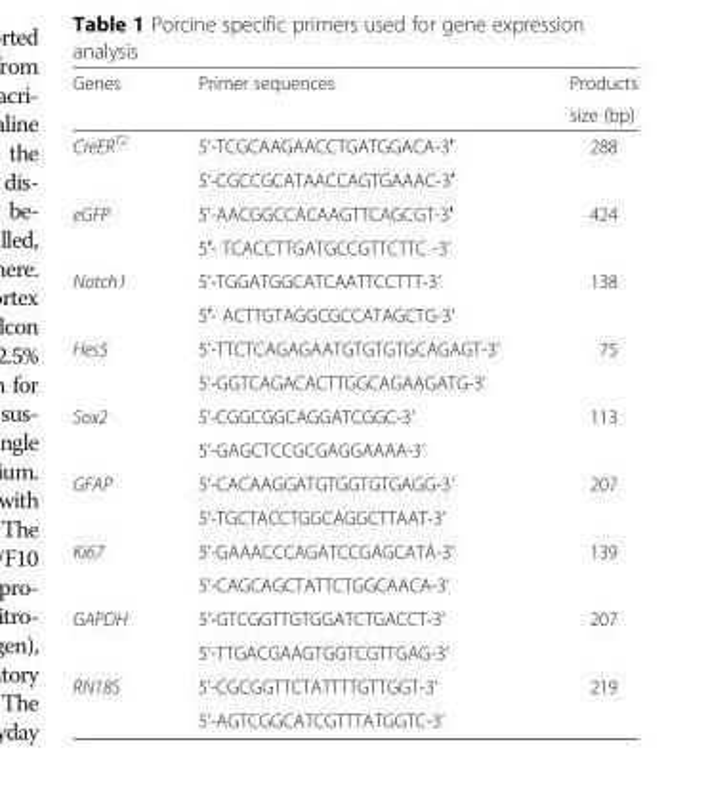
<table><thead><tr><td rowspan="2">Genes</td><td rowspan="2">Primer sequences</td><td rowspan="2">Products size (bp)</td></tr><tr></tr></thead><tbody><tr><td rowspan="2">CreER<sup>T2</sup></td><td>5’-TCGCAAGAACCTGATGGACA-3′</td><td rowspan="2">288</td></tr><tr><td>5’-CGCCGCATAACCAGTGAAAC-3′</td></tr><tr><td rowspan="2">eGFP</td><td>5’-AACGGCCACAAGTTCAGCGT-3′</td><td rowspan="2">424</td></tr><tr><td>5′- TCACCTTGATGCCGTTCTTC -3’</td></tr><tr><td rowspan="2">Notch1</td><td>5’-TGGATGGCATCAATTCCTTT-3’</td><td rowspan="2">138</td></tr><tr><td>5′- ACTTGTAGGCGCCATAGCTG-3’</td></tr><tr><td rowspan="2">Hes5</td><td>5’-TTCTCAGAGAATGTGTGTGCAGAGT-3’</td><td rowspan="2">75</td></tr><tr><td>5’-GGTCAGACACTTGGCAGAAGATG-3’</td></tr><tr><td rowspan="2">Sox2</td><td>5’-CGGCGGCAGGATCGGC-3’</td><td rowspan="2">113</td></tr><tr><td>5’-GAGCTCCGCGAGGAAAA-3’</td></tr><tr><td rowspan="2">GFAP</td><td>5’-CACAAGGATGTGGTGTGAGG-3’</td><td rowspan="2">207</td></tr><tr><td>5’-TGCTACCTGGCAGGCTTAAT-3’</td></tr><tr><td rowspan="2">Ki67</td><td>5’-GAAACCCAGATCCGAGCATA-3’</td><td rowspan="2">139</td></tr><tr><td>5’-CAGCAGCTATTCTGGCAACA-3’</td></tr><tr><td rowspan="2">GAPDH</td><td>5’-GTCGGTTGTGGATCTGACCT-3’</td><td rowspan="2">207</td></tr><tr><td>5’-TTGACGAAGTGGTCGTTGAG-3’</td></tr><tr><td rowspan="2">RN18S</td><td>5’-CGCGGTTCTATTTTGTTGGT-3’</td><td rowspan="2">219</td></tr><tr><td>5’-AGTCGGCATCGTTTATGGTC-3’</td></tr></tbody></table>